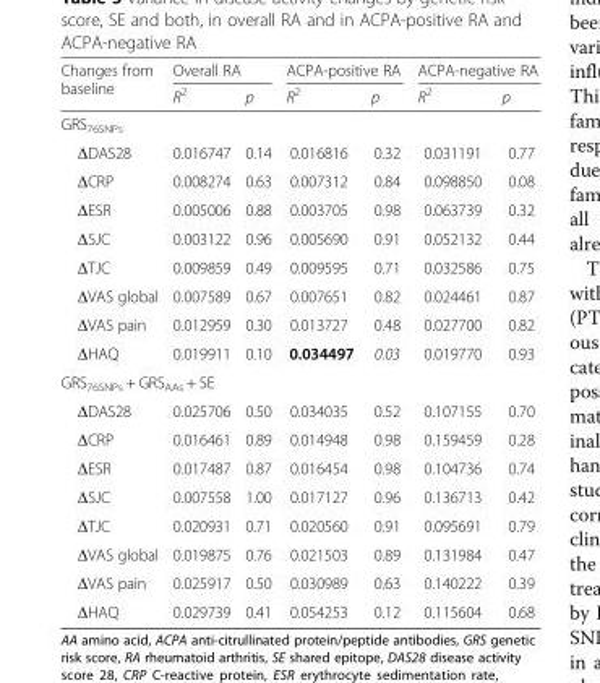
<table><thead><tr><td rowspan="2">Changes from baseline</td><td colspan="2">Overall RA</td><td colspan="2">ACPA-positive RA</td><td colspan="2">ACPA-negative RA</td></tr><tr><td>R<sup>2</sup></td><td>p</td><td>R<sup>2</sup></td><td>p</td><td>R<sup>2</sup></td><td>p</td></tr></thead><tbody><tr><td colspan="7">GRS<sub>76SNPs</sub></td></tr><tr><td>ΔDAS28</td><td>0.016747</td><td>0.14</td><td>0.016816</td><td>0.32</td><td>0.031191</td><td>0.77</td></tr><tr><td>ΔCRP</td><td>0.008274</td><td>0.63</td><td>0.007312</td><td>0.84</td><td>0.098850</td><td>0.08</td></tr><tr><td>ΔESR</td><td>0.005006</td><td>0.88</td><td>0.003705</td><td>0.98</td><td>0.063739</td><td>0.32</td></tr><tr><td>ΔSJC</td><td>0.003122</td><td>0.96</td><td>0.005690</td><td>0.91</td><td>0.052132</td><td>0.44</td></tr><tr><td>ΔTJC</td><td>0.009859</td><td>0.49</td><td>0.009595</td><td>0.71</td><td>0.032586</td><td>0.75</td></tr><tr><td>ΔVAS global</td><td>0.007589</td><td>0.67</td><td>0.007651</td><td>0.82</td><td>0.024461</td><td>0.87</td></tr><tr><td>ΔVAS pain</td><td>0.012959</td><td>0.30</td><td>0.013727</td><td>0.48</td><td>0.027700</td><td>0.82</td></tr><tr><td>ΔHAQ</td><td>0.019911</td><td>0.10</td><td>0.034497</td><td>0.03</td><td>0.019770</td><td>0.93</td></tr><tr><td colspan="7">GRS<sub>76SNPs</sub> + GRS<sub>AAs</sub> + SE</td></tr><tr><td>ΔDAS28</td><td>0.025706</td><td>0.50</td><td>0.034035</td><td>0.52</td><td>0.107155</td><td>0.70</td></tr><tr><td>ΔCRP</td><td>0.016461</td><td>0.89</td><td>0.014948</td><td>0.98</td><td>0.159459</td><td>0.28</td></tr><tr><td>ΔESR</td><td>0.017487</td><td>0.87</td><td>0.016454</td><td>0.98</td><td>0.104736</td><td>0.74</td></tr><tr><td>ΔSJC</td><td>0.007558</td><td>1.00</td><td>0.017127</td><td>0.96</td><td>0.136713</td><td>0.42</td></tr><tr><td>ΔTJC</td><td>0.020931</td><td>0.71</td><td>0.020560</td><td>0.91</td><td>0.095691</td><td>0.79</td></tr><tr><td>ΔVAS global</td><td>0.019875</td><td>0.76</td><td>0.021503</td><td>0.89</td><td>0.131984</td><td>0.47</td></tr><tr><td>ΔVAS pain</td><td>0.025917</td><td>0.50</td><td>0.030989</td><td>0.63</td><td>0.140222</td><td>0.39</td></tr><tr><td>ΔHAQ</td><td>0.029739</td><td>0.41</td><td>0.054253</td><td>0.12</td><td>0.115604</td><td>0.68</td></tr></tbody></table>